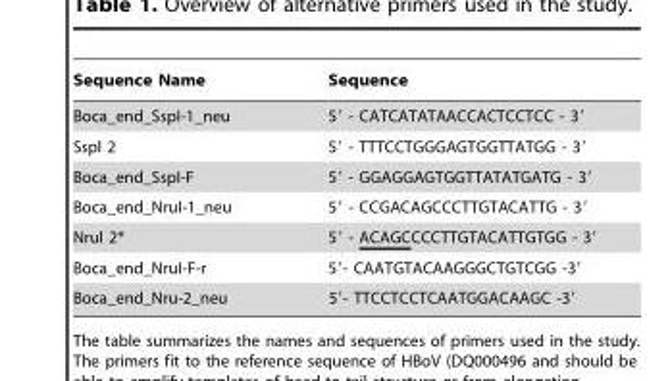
<table><thead><tr><td>Sequence Name</td><td>Sequence</td></tr></thead><tbody><tr><td>Boca_end_SspI-1_neu</td><td>5′ - CATCATATAACCACTCCTCC - 3′</td></tr><tr><td>Sspl 2</td><td>5′ - TTTCCTGGGAGTGGTTATGG - 3′</td></tr><tr><td>Boca_end_SspI-F</td><td>5′ - GGAGGAGTGGTTATATGATG - 3′</td></tr><tr><td>Boca_end_NruI-1_neu</td><td>5′ - CCGACAGCCCTTGTACATTG - 3′</td></tr><tr><td>Nrul 2*</td><td>5′ - ACAGCCCCTTGTACATTGTGG - 3′</td></tr><tr><td>Boca_end_NruI-F-r</td><td>5′- CAATGTACAAGGGCTGTCGG -3′</td></tr><tr><td>Boca_end_Nru-2_neu</td><td>5′- TTCCTCCTCAATGGACAAGC -3′</td></tr></tbody></table>